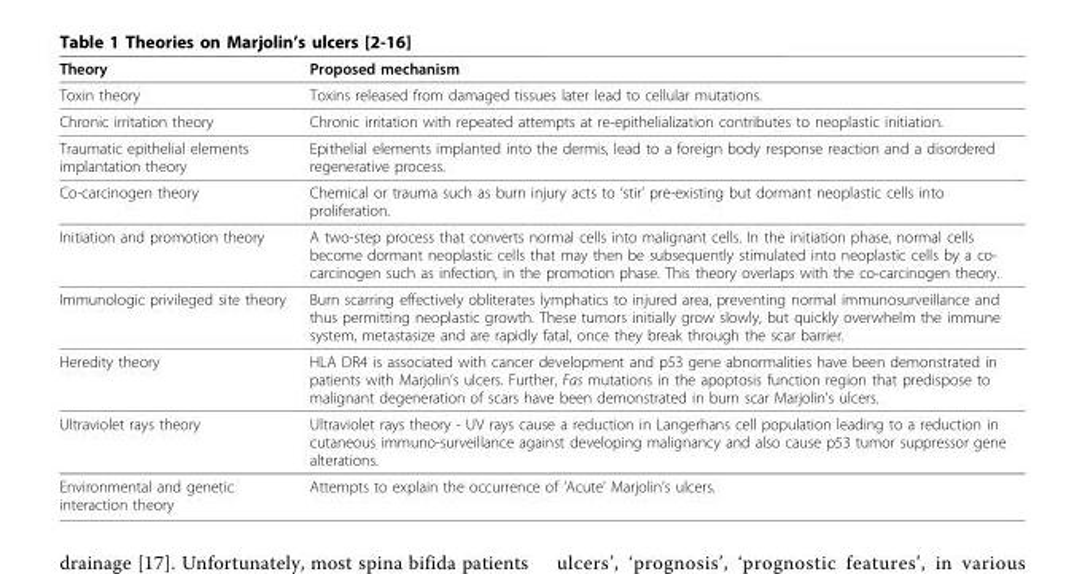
<table><thead><tr><td>Theory</td><td>Proposed mechanism</td></tr></thead><tbody><tr><td>Toxin theory</td><td>Toxins released from damaged tissues later lead to cellular mutations.</td></tr><tr><td>Chronic irritation theory</td><td>Chronic irritation with repeated attempts at re-epithelialization contributes to neoplastic initiation.</td></tr><tr><td>Traumatic epithelial elements implantation theory</td><td>Epithelial elements implanted into the dermis, lead to a foreign body response reaction and a disordered regenerative process.</td></tr><tr><td>Co-carcinogen theory</td><td>Chemical or trauma such as burn injury acts to ‘stir’ pre-existing but dormant neoplastic cells into proliferation.</td></tr><tr><td>Initiation and promotion theory</td><td>A two-step process that converts normal cells into malignant cells. In the initiation phase, normal cells become dormant neoplastic cells that may then be subsequently stimulated into neoplastic cells by a co- carcinogen such as infection, in the promotion phase. This theory overlaps with the co-carcinogen theory.</td></tr><tr><td>Immunologic privileged site theory</td><td>Burn scarring effectively obliterates lymphatics to injured area, preventing normal immunosurveillance and thus permitting neoplastic growth. These tumors initially grow slowly, but quickly overwhelm the immune system, metastasize and are rapidly fatal, once they break through the scar barrier.</td></tr><tr><td>Heredity theory</td><td>HLA DR4 is associated with cancer development and p53 gene abnormalities have been demonstrated in patients with Marjolin’s ulcers. Further, Fas mutations in the apoptosis function region that predispose to malignant degeneration of scars have been demonstrated in burn scar Marjolin’s ulcers.</td></tr><tr><td>Ultraviolet rays theory</td><td>Ultraviolet rays theory - UV rays cause a reduction in Langerhans cell population leading to a reduction in cutaneous immuno-surveillance against developing malignancy and also cause p53 tumor suppressor gene alterations.</td></tr><tr><td>Environmental and genetic interaction theory</td><td>Attempts to explain the occurrence of ‘Acute’ Marjolin’s ulcers.</td></tr></tbody></table>